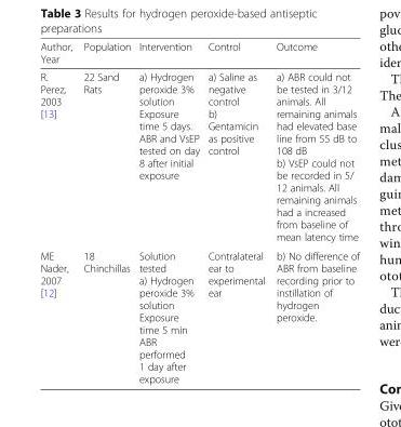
<table><thead><tr><td>Author, Year</td><td>Population</td><td>Intervention</td><td>Control</td><td>Outcome</td></tr></thead><tbody><tr><td>R. Perez, 2003 [13]</td><td>22 Sand Rats</td><td>a) Hydrogen peroxide 3% solution Exposure time 5 days. ABR and VsEP tested on day 8 after initial exposure</td><td>a) Saline as negative control b) Gentamicin as positive control</td><td>a) ABR could not be tested in 3/12 animals. All remaining animals had elevated base line from 55 dB to 108 dB b) VsEP could not be recorded in 5/ 12 animals. All remaining animals had a increased from baseline of mean latency time</td></tr><tr><td>ME Nader, 2007 [12]</td><td>18 Chinchillas</td><td>Solution tested a) Hydrogen peroxide 3% solution Exposure time 5 min ABR performed 1 day after exposure</td><td>Contralateral ear to experimental ear</td><td>b) No difference of ABR from baseline recording prior to instillation of hydrogen peroxide.</td></tr></tbody></table>